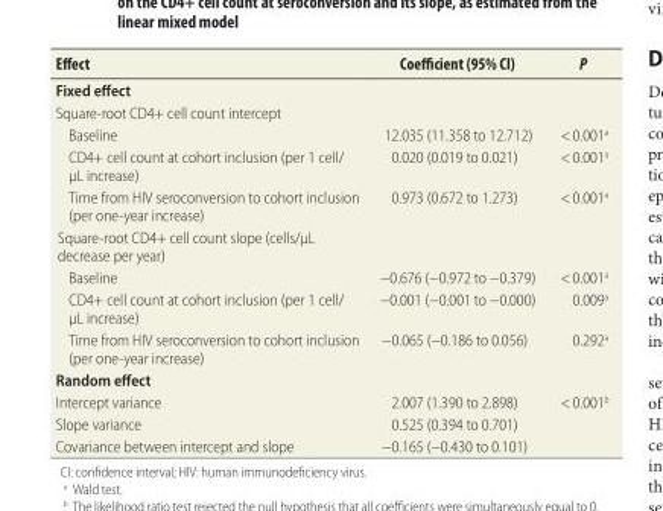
<table><thead><tr><td>Effect</td><td>Coefficient (95% CI)</td><td>P</td></tr></thead><tbody><tr><td colspan="3">Fixed effect</td></tr><tr><td colspan="3">Square-root CD4+ cell count intercept</td></tr><tr><td>Baseline</td><td>12.035 (11.358 to 12.712)</td><td>&lt; 0.001<sup>a</sup></td></tr><tr><td>CD4+ cell count at cohort inclusion (per 1 cell/ μL increase)</td><td>0.020 (0.019 to 0.021)</td><td>&lt; 0.001<sup>a</sup></td></tr><tr><td>Time from HIV seroconversion to cohort inclusion (per one-year increase)</td><td>0.973 (0.672 to 1.273)</td><td>&lt; 0.001<sup>a</sup></td></tr><tr><td colspan="3">Square-root CD4+ cell count slope (cells/μL decrease per year)</td></tr><tr><td>Baseline</td><td>−0.676 (−0.972 to −0.379)</td><td>&lt; 0.001<sup>a</sup></td></tr><tr><td>CD4+ cell count at cohort inclusion (per 1 cell/ μL increase)</td><td>−0.001 (−0.001 to −0.000)</td><td>0.009<sup>a</sup></td></tr><tr><td>Time from HIV seroconversion to cohort inclusion (per one-year increase)</td><td>−0.065 (−0.186 to 0.056)</td><td>0.292<sup>a</sup></td></tr><tr><td colspan="3">Random effect</td></tr><tr><td>Intercept variance</td><td>2.007 (1.390 to 2.898)</td><td rowspan="3">&lt; 0.001<sup>b</sup></td></tr><tr><td>Slope variance</td><td>0.525 (0.394 to 0.701)</td></tr><tr><td>Covariance between intercept and slope</td><td>−0.165 (−0.430 to 0.101)</td></tr></tbody></table>